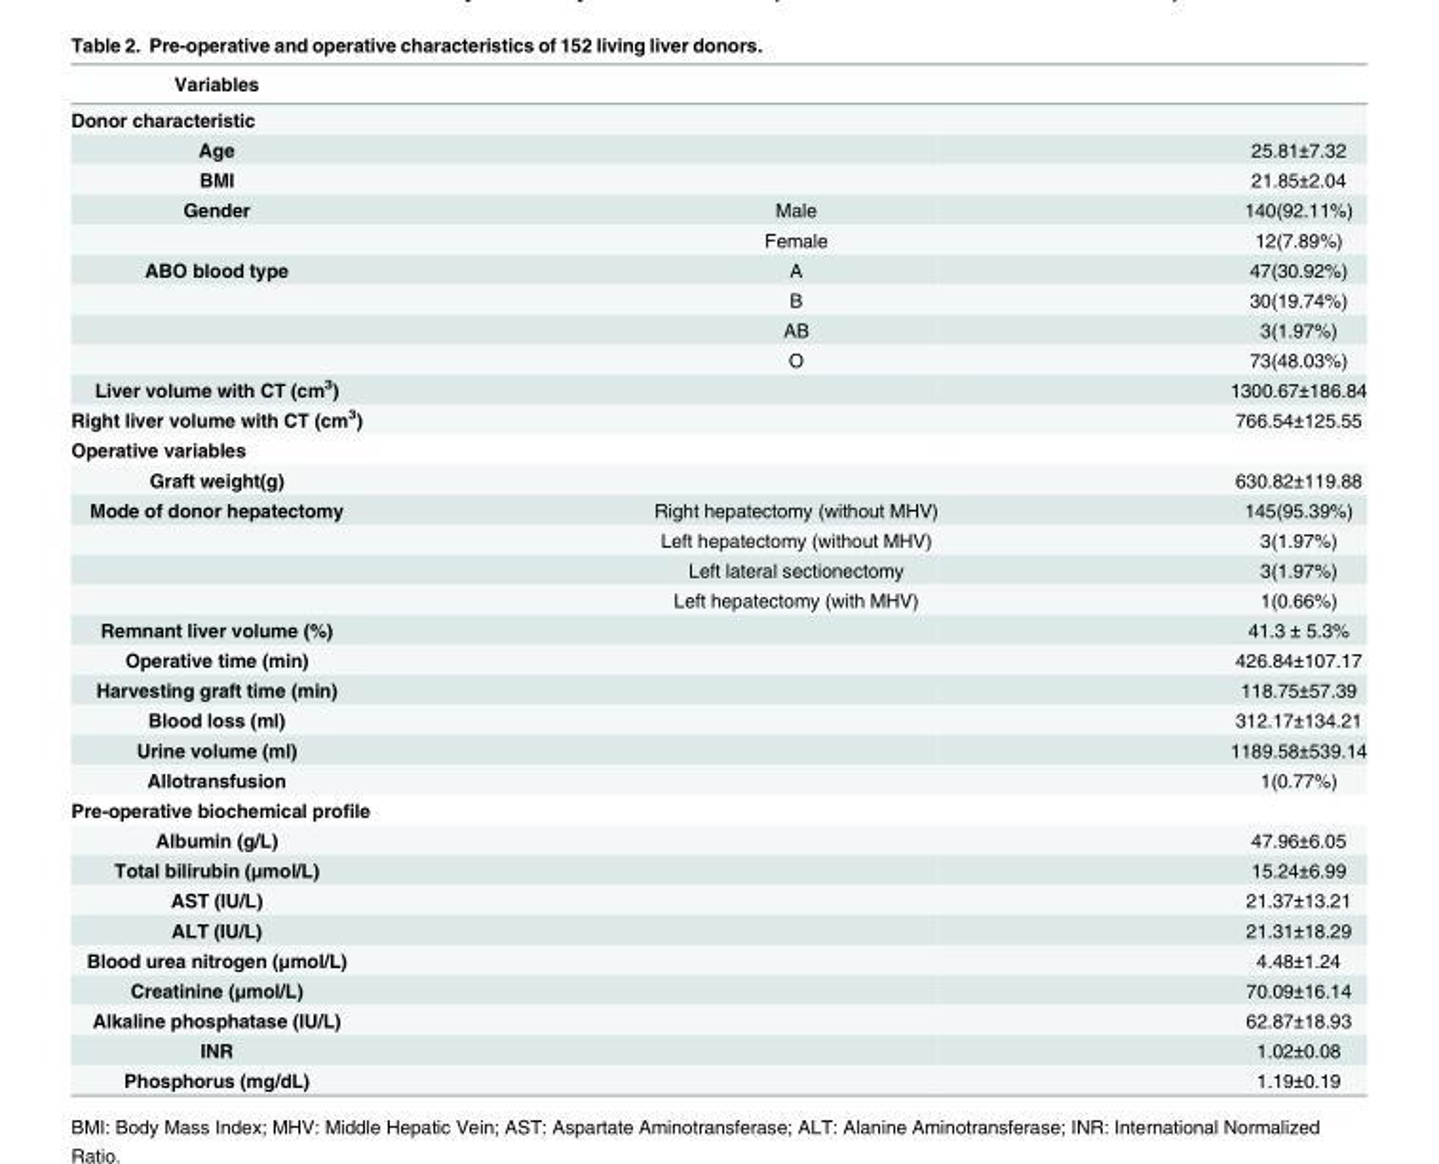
<table><thead><tr><td>Variables</td><td></td><td></td></tr></thead><tbody><tr><td colspan="3">Donor characteristic</td></tr><tr><td>Age</td><td></td><td>25.81±7.32</td></tr><tr><td>BMI</td><td></td><td>21.85±2.04</td></tr><tr><td rowspan="2">Gender</td><td>Male</td><td>140(92.11%)</td></tr><tr><td>Female</td><td>12(7.89%)</td></tr><tr><td rowspan="4">ABO blood type</td><td>A</td><td>47(30.92%)</td></tr><tr><td>B</td><td>30(19.74%)</td></tr><tr><td>AB</td><td>3(1.97%)</td></tr><tr><td>O</td><td>73(48.03%)</td></tr><tr><td>Liver volume with CT (cm<sup>3</sup>)</td><td></td><td>1300.67±186.84</td></tr><tr><td>Right liver volume with CT (cm<sup>3</sup>)</td><td></td><td>766.54±125.55</td></tr><tr><td colspan="3">Operative variables</td></tr><tr><td>Graft weight(g)</td><td></td><td>630.82±119.88</td></tr><tr><td rowspan="4">Mode of donor hepatectomy</td><td>Right hepatectomy (without MHV)</td><td>145(95.39%)</td></tr><tr><td>Left hepatectomy (without MHV)</td><td>3(1.97%)</td></tr><tr><td>Left lateral sectionectomy</td><td>3(1.97%)</td></tr><tr><td>Left hepatectomy (with MHV)</td><td>1(0.66%)</td></tr><tr><td>Remnant liver volume (%)</td><td></td><td>41.3 ± 5.3%</td></tr><tr><td>Operative time (min)</td><td></td><td>426.84±107.17</td></tr><tr><td>Harvesting graft time (min)</td><td></td><td>118.75±57.39</td></tr><tr><td>Blood loss (ml)</td><td></td><td>312.17±134.21</td></tr><tr><td>Urine volume (ml)</td><td></td><td>1189.58±539.14</td></tr><tr><td>Allotransfusion</td><td></td><td>1(0.77%)</td></tr><tr><td colspan="3">Pre-operative biochemical profile</td></tr><tr><td>Albumin (g/L)</td><td></td><td>47.96±6.05</td></tr><tr><td>Total bilirubin (μmol/L)</td><td></td><td>15.24±6.99</td></tr><tr><td>AST (IU/L)</td><td></td><td>21.37±13.21</td></tr><tr><td>ALT (IU/L)</td><td></td><td>21.31±18.29</td></tr><tr><td>Blood urea nitrogen (μmol/L)</td><td></td><td>4.48±1.24</td></tr><tr><td>Creatinine (μmol/L)</td><td></td><td>70.09±16.14</td></tr><tr><td>Alkaline phosphatase (IU/L)</td><td></td><td>62.87±18.93</td></tr><tr><td>INR</td><td></td><td>1.02±0.08</td></tr><tr><td>Phosphorus (mg/dL)</td><td></td><td>1.19±0.19</td></tr></tbody></table>